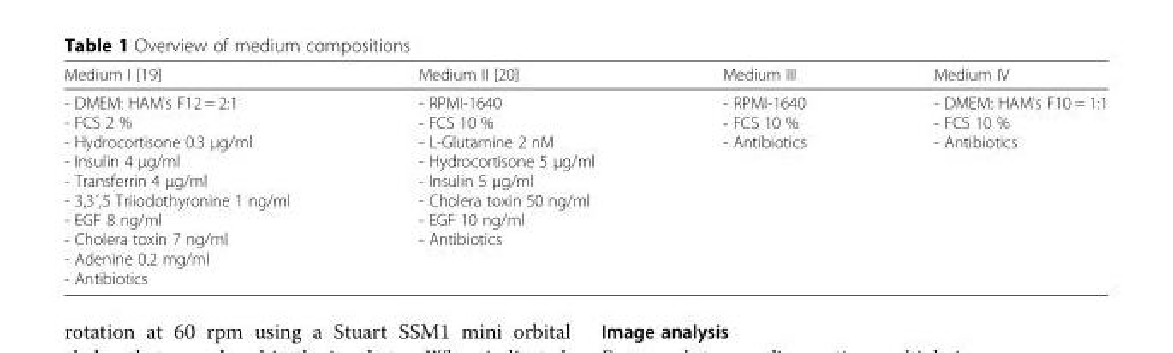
<table><thead><tr><td>Medium I [19]</td><td>Medium II [20]</td><td>Medium III</td><td>Medium IV</td></tr></thead><tbody><tr><td>- DMEM: HAM&#x27;s F12 = 2:1 - FCS 2 % - Hydrocortisone 0.3 μg/ml - Insulin 4 μg/ml - Transferrin 4 μg/ml - 3,3´,5 Triiodothyronine 1 ng/ml - EGF 8 ng/ml - Cholera toxin 7 ng/ml - Adenine 0.2 mg/ml - Antibiotics</td><td>- RPMI-1640 - FCS 10 % - L-Glutamine 2 nM - Hydrocortisone 5 μg/ml - Insulin 5 μg/ml - Cholera toxin 50 ng/ml - EGF 10 ng/ml - Antibiotics</td><td>- RPMI-1640 - FCS 10 % - Antibiotics</td><td>- DMEM: HAM&#x27;s F10 = 1:1 - FCS 10 % - Antibiotics</td></tr></tbody></table>